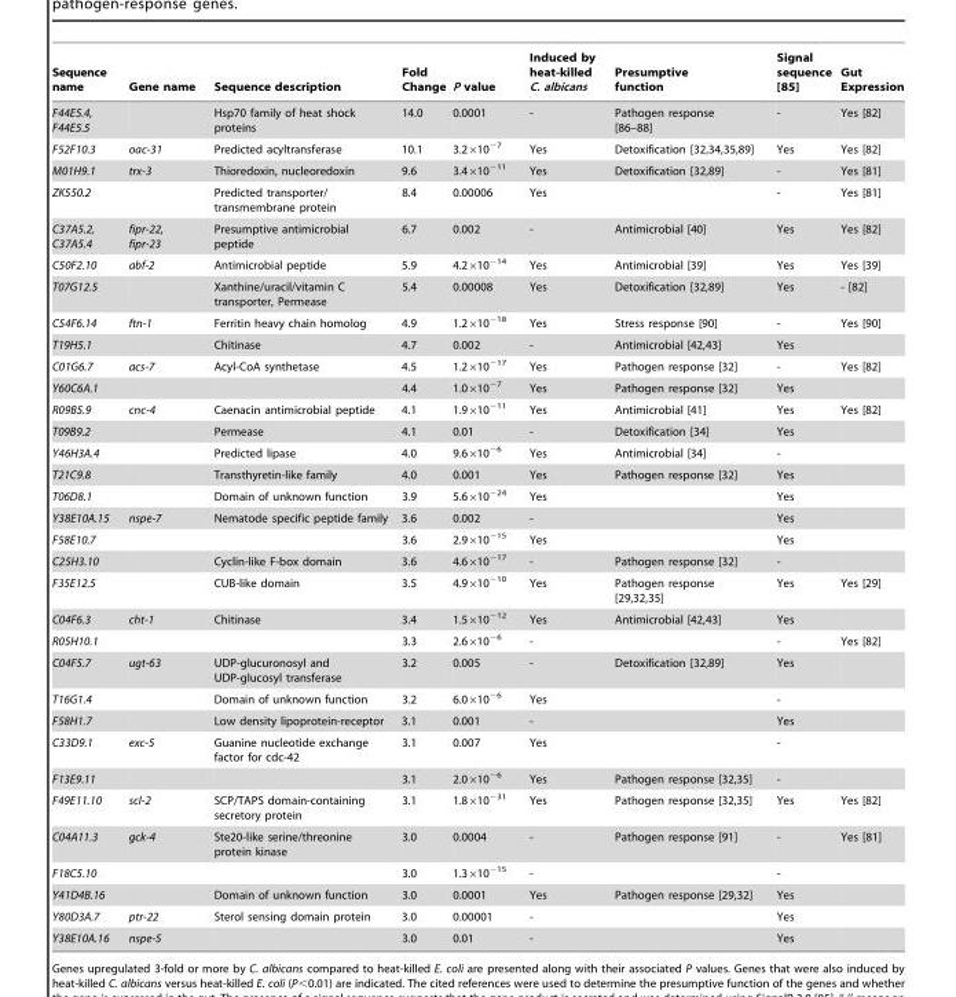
<table><thead><tr><td>Sequence name</td><td>Gene name</td><td>Sequence description</td><td>Fold Change</td><td>P value</td><td>Induced by heat-killed C. albicans</td><td>Presumptive function</td><td>Signal sequence [85]</td><td>Gut Expression</td></tr></thead><tbody><tr><td>F44E5.4, F44E5.5</td><td></td><td>Hsp70 family of heat shock proteins</td><td>14.0</td><td>0.0001</td><td>-</td><td>Pathogen response [86–88]</td><td>-</td><td>Yes [82]</td></tr><tr><td>F52F10.3</td><td>oac-31</td><td>Predicted acyltransferase</td><td>10.1</td><td>3.2×10<sup>−7</sup></td><td>Yes</td><td>Detoxification [32,34,35,89]</td><td>Yes</td><td>Yes [82]</td></tr><tr><td>M01H9.1</td><td>trx-3</td><td>Thioredoxin, nucleoredoxin</td><td>9.6</td><td>3.4×10<sup>−11</sup></td><td>Yes</td><td>Detoxification [32,89]</td><td>-</td><td>Yes [81]</td></tr><tr><td>ZK550.2</td><td></td><td>Predicted transporter/ transmembrane protein</td><td>8.4</td><td>0.00006</td><td>Yes</td><td></td><td>-</td><td>Yes [81]</td></tr><tr><td>C37A5.2, C37A5.4</td><td>fipr-22, fipr-23</td><td>Presumptive antimicrobial peptide</td><td>6.7</td><td>0.002</td><td>-</td><td>Antimicrobial [40]</td><td>Yes</td><td>Yes [82]</td></tr><tr><td>C50F2.10</td><td>abf-2</td><td>Antimicrobial peptide</td><td>5.9</td><td>4.2×10<sup>−14</sup></td><td>Yes</td><td>Antimicrobial [39]</td><td>Yes</td><td>Yes [39]</td></tr><tr><td>T07G12.5</td><td></td><td>Xanthine/uracil/vitamin C transporter, Permease</td><td>5.4</td><td>0.00008</td><td>Yes</td><td>Detoxification [32,89]</td><td>Yes</td><td>- [82]</td></tr><tr><td>C54F6.14</td><td>ftn-1</td><td>Ferritin heavy chain homolog</td><td>4.9</td><td>1.2×10<sup>−18</sup></td><td>Yes</td><td>Stress response [90]</td><td>-</td><td>Yes [90]</td></tr><tr><td>T19H5.1</td><td></td><td>Chitinase</td><td>4.7</td><td>0.002</td><td>-</td><td>Antimicrobial [42,43]</td><td>Yes</td><td></td></tr><tr><td>C01G6.7</td><td>acs-7</td><td>Acyl-CoA synthetase</td><td>4.5</td><td>1.2×10<sup>−17</sup></td><td>Yes</td><td>Pathogen response [32]</td><td>-</td><td>Yes [82]</td></tr><tr><td>Y60C6A.1</td><td></td><td></td><td>4.4</td><td>1.0×10<sup>−7</sup></td><td>Yes</td><td>Pathogen response [32]</td><td>Yes</td><td></td></tr><tr><td>R09B5.9</td><td>cnc-4</td><td>Caenacin antimicrobial peptide</td><td>4.1</td><td>1.9×10<sup>−11</sup></td><td>Yes</td><td>Antimicrobial [41]</td><td>Yes</td><td>Yes [82]</td></tr><tr><td>T09B9.2</td><td></td><td>Permease</td><td>4.1</td><td>0.01</td><td>-</td><td>Detoxification [34]</td><td>Yes</td><td></td></tr><tr><td>Y46H3A.4</td><td></td><td>Predicted lipase</td><td>4.0</td><td>9.6×10<sup>−6</sup></td><td>Yes</td><td>Antimicrobial [34]</td><td>-</td><td></td></tr><tr><td>T21C9.8</td><td></td><td>Transthyretin-like family</td><td>4.0</td><td>0.001</td><td>Yes</td><td>Pathogen response [32]</td><td>Yes</td><td></td></tr><tr><td>T06D8.1</td><td></td><td>Domain of unknown function</td><td>3.9</td><td>5.6×10<sup>−24</sup></td><td>Yes</td><td></td><td>Yes</td><td></td></tr><tr><td>Y38E10A.15</td><td>nspe-7</td><td>Nematode specific peptide family</td><td>3.6</td><td>0.002</td><td>-</td><td></td><td>Yes</td><td></td></tr><tr><td>F58E10.7</td><td></td><td></td><td>3.6</td><td>2.9×10<sup>−15</sup></td><td>Yes</td><td></td><td>Yes</td><td></td></tr><tr><td>C25H3.10</td><td></td><td>Cyclin-like F-box domain</td><td>3.6</td><td>4.6×10<sup>−17</sup></td><td>-</td><td>Pathogen response [32]</td><td>-</td><td></td></tr><tr><td>F35E12.5</td><td></td><td>CUB-like domain</td><td>3.5</td><td>4.9×10<sup>−10</sup></td><td>Yes</td><td>Pathogen response [29,32,35]</td><td>Yes</td><td>Yes [29]</td></tr><tr><td>C04F6.3</td><td>cht-1</td><td>Chitinase</td><td>3.4</td><td>1.5×10<sup>−12</sup></td><td>Yes</td><td>Antimicrobial [42,43]</td><td>Yes</td><td></td></tr><tr><td>R05H10.1</td><td></td><td></td><td>3.3</td><td>2.6×10<sup>−6</sup></td><td>-</td><td></td><td>-</td><td>Yes [82]</td></tr><tr><td>C04F5.7</td><td>ugt-63</td><td>UDP-glucuronosyl and UDP-glucosyl transferase</td><td>3.2</td><td>0.005</td><td>-</td><td>Detoxification [32,89]</td><td>Yes</td><td></td></tr><tr><td>T16G1.4</td><td></td><td>Domain of unknown function</td><td>3.2</td><td>6.0×10<sup>−6</sup></td><td>Yes</td><td></td><td>-</td><td></td></tr><tr><td>F58H1.7</td><td></td><td>Low density lipoprotein-receptor</td><td>3.1</td><td>0.001</td><td>-</td><td></td><td>Yes</td><td></td></tr><tr><td>C33D9.1</td><td>exc-5</td><td>Guanine nucleotide exchange factor for cdc-42</td><td>3.1</td><td>0.007</td><td>Yes</td><td></td><td>-</td><td></td></tr><tr><td>F13E9.11</td><td></td><td></td><td>3.1</td><td>2.0×10<sup>−6</sup></td><td>Yes</td><td>Pathogen response [32,35]</td><td>-</td><td></td></tr><tr><td>F49E11.10</td><td>scl-2</td><td>SCP/TAPS domain-containing secretory protein</td><td>3.1</td><td>1.8×10<sup>−31</sup></td><td>Yes</td><td>Pathogen response [32,35]</td><td>Yes</td><td>Yes [82]</td></tr><tr><td>C04A11.3</td><td>gck-4</td><td>Ste20-like serine/threonine protein kinase</td><td>3.0</td><td>0.0004</td><td>-</td><td>Pathogen response [91]</td><td>-</td><td>Yes [81]</td></tr><tr><td>F18C5.10</td><td></td><td></td><td>3.0</td><td>1.3×10<sup>−15</sup></td><td>-</td><td></td><td>-</td><td></td></tr><tr><td>Y41D4B.16</td><td></td><td>Domain of unknown function</td><td>3.0</td><td>0.0001</td><td>Yes</td><td>Pathogen response [29,32]</td><td>Yes</td><td></td></tr><tr><td>Y80D3A.7</td><td>ptr-22</td><td>Sterol sensing domain protein</td><td>3.0</td><td>0.00001</td><td>-</td><td></td><td>Yes</td><td></td></tr><tr><td>Y38E10A.16</td><td>nspe-5</td><td></td><td>3.0</td><td>0.01</td><td>-</td><td></td><td>Yes</td><td></td></tr></tbody></table>